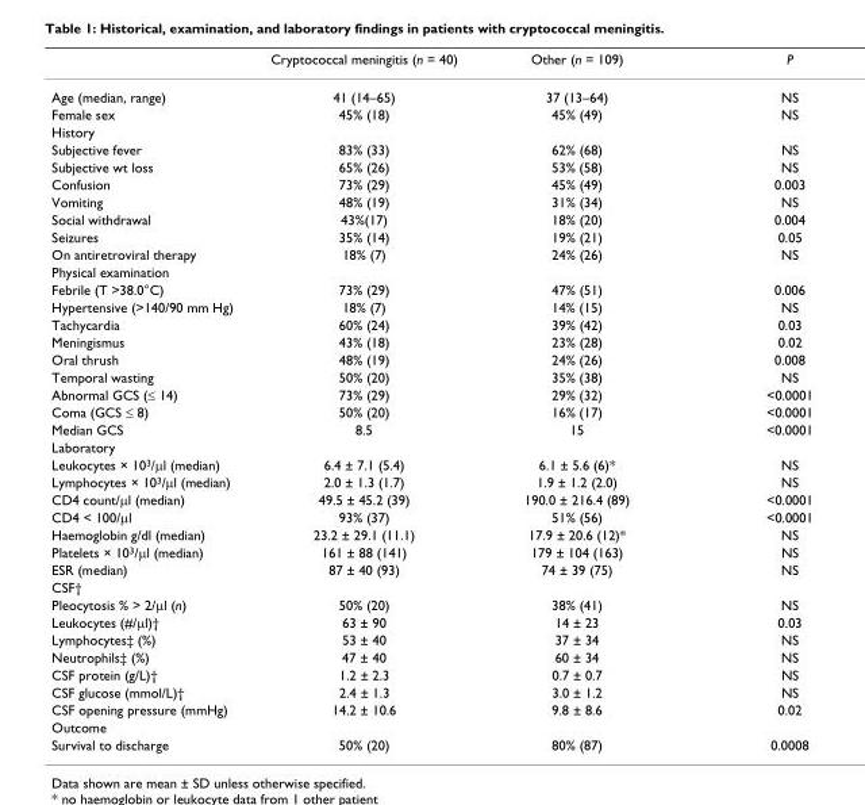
<table><thead><tr><td></td><td>Cryptococcal meningitis (n = 40)</td><td>Other (n = 109)</td><td>P</td></tr></thead><tbody><tr><td>Age (median, range)</td><td>41 (14–65)</td><td>37 (13–64)</td><td>NS</td></tr><tr><td>Female sex</td><td>45% (18)</td><td>45% (49)</td><td>NS</td></tr><tr><td colspan="4">History</td></tr><tr><td>Subjective fever</td><td>83% (33)</td><td>62% (68)</td><td>NS</td></tr><tr><td>Subjective wt loss</td><td>65% (26)</td><td>53% (58)</td><td>NS</td></tr><tr><td>Confusion</td><td>73% (29)</td><td>45% (49)</td><td>0.003</td></tr><tr><td>Vomiting</td><td>48% (19)</td><td>31% (34)</td><td>NS</td></tr><tr><td>Social withdrawal</td><td>43%(17)</td><td>18% (20)</td><td>0.004</td></tr><tr><td>Seizures</td><td>35% (14)</td><td>19% (21)</td><td>0.05</td></tr><tr><td>On antiretroviral therapy</td><td>18% (7)</td><td>24% (26)</td><td>NS</td></tr><tr><td colspan="4">Physical examination</td></tr><tr><td>Febrile (T &gt;38.0°C)</td><td>73% (29)</td><td>47% (51)</td><td>0.006</td></tr><tr><td>Hypertensive (&gt;140/90 mm Hg)</td><td>18% (7)</td><td>14% (15)</td><td>NS</td></tr><tr><td>Tachycardia</td><td>60% (24)</td><td>39% (42)</td><td>0.03</td></tr><tr><td>Meningismus</td><td>43% (18)</td><td>23% (28)</td><td>0.02</td></tr><tr><td>Oral thrush</td><td>48% (19)</td><td>24% (26)</td><td>0.008</td></tr><tr><td>Temporal wasting</td><td>50% (20)</td><td>35% (38)</td><td>NS</td></tr><tr><td>Abnormal GCS (≤ 14)</td><td>73% (29)</td><td>29% (32)</td><td>&lt;0.0001</td></tr><tr><td>Coma (GCS ≤ 8)</td><td>50% (20)</td><td>16% (17)</td><td>&lt;0.0001</td></tr><tr><td>Median GCS</td><td>8.5</td><td>15</td><td>&lt;0.0001</td></tr><tr><td colspan="4">Laboratory</td></tr><tr><td>Leukocytes × 10<sup>3</sup>/µl (median)</td><td>6.4 ± 7.1 (5.4)</td><td>6.1 ± 5.6 (6)*</td><td>NS</td></tr><tr><td>Lymphocytes × 10<sup>3</sup>/µl (median)</td><td>2.0 ± 1.3 (1.7)</td><td>1.9 ± 1.2 (2.0)</td><td>NS</td></tr><tr><td>CD4 count/µl (median)</td><td>49.5 ± 45.2 (39)</td><td>190.0 ± 216.4 (89)</td><td>&lt;0.0001</td></tr><tr><td>CD4 &lt; 100/µl</td><td>93% (37)</td><td>51% (56)</td><td>&lt;0.0001</td></tr><tr><td>Haemoglobin g/dl (median)</td><td>23.2 ± 29.1 (11.1)</td><td>17.9 ± 20.6 (12)*</td><td>NS</td></tr><tr><td>Platelets × 10<sup>3</sup>/µl (median)</td><td>161 ± 88 (141)</td><td>179 ± 104 (163)</td><td>NS</td></tr><tr><td>ESR (median)</td><td>87 ± 40 (93)</td><td>74 ± 39 (75)</td><td>NS</td></tr><tr><td colspan="4">CSF†</td></tr><tr><td>Pleocytosis % &gt; 2/µl (n)</td><td>50% (20)</td><td>38% (41)</td><td>NS</td></tr><tr><td>Leukocytes (#/µl)†</td><td>63 ± 90</td><td>14 ± 23</td><td>0.03</td></tr><tr><td>Lymphocytes‡ (%)</td><td>53 ± 40</td><td>37 ± 34</td><td>NS</td></tr><tr><td>Neutrophils‡ (%)</td><td>47 ± 40</td><td>60 ± 34</td><td>NS</td></tr><tr><td>CSF protein (g/L)†</td><td>1.2 ± 2.3</td><td>0.7 ± 0.7</td><td>NS</td></tr><tr><td>CSF glucose (mmol/L)†</td><td>2.4 ± 1.3</td><td>3.0 ± 1.2</td><td>NS</td></tr><tr><td>CSF opening pressure (mmHg)</td><td>14.2 ± 10.6</td><td>9.8 ± 8.6</td><td>0.02</td></tr><tr><td colspan="4">Outcome</td></tr><tr><td>Survival to discharge</td><td>50% (20)</td><td>80% (87)</td><td>0.0008</td></tr></tbody></table>